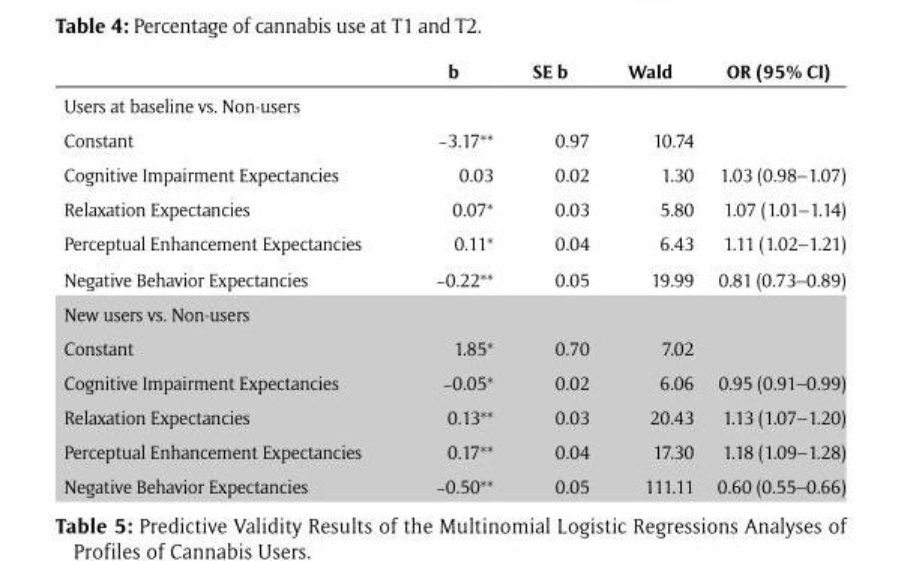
<table><thead><tr><td></td><td>b</td><td>SE b</td><td>Wald</td><td>OR (95% CI)</td></tr></thead><tbody><tr><td colspan="5">Users at baseline vs. Non-users</td></tr><tr><td>Constant</td><td>−3.17**</td><td>0.97</td><td>10.74</td><td></td></tr><tr><td>Cognitive Impairment Expectancies</td><td>0.03</td><td>0.02</td><td>1.30</td><td>1.03 (0.98–1.07)</td></tr><tr><td>Relaxation Expectancies</td><td>0.07*</td><td>0.03</td><td>5.80</td><td>1.07 (1.01–1.14)</td></tr><tr><td>Perceptual Enhancement Expectancies</td><td>0.11*</td><td>0.04</td><td>6.43</td><td>1.11 (1.02–1.21)</td></tr><tr><td>Negative Behavior Expectancies</td><td>−0.22**</td><td>0.05</td><td>19.99</td><td>0.81 (0.73–0.89)</td></tr><tr><td colspan="5">New users vs. Non-users</td></tr><tr><td>Constant</td><td>1.85*</td><td>0.70</td><td>7.02</td><td></td></tr><tr><td>Cognitive Impairment Expectancies</td><td>−0.05*</td><td>0.02</td><td>6.06</td><td>0.95 (0.91–0.99)</td></tr><tr><td>Relaxation Expectancies</td><td>0.13**</td><td>0.03</td><td>20.43</td><td>1.13 (1.07–1.20)</td></tr><tr><td>Perceptual Enhancement Expectancies</td><td>0.17**</td><td>0.04</td><td>17.30</td><td>1.18 (1.09–1.28)</td></tr><tr><td>Negative Behavior Expectancies</td><td>−0.50**</td><td>0.05</td><td>111.11</td><td>0.60 (0.55–0.66)</td></tr></tbody></table>